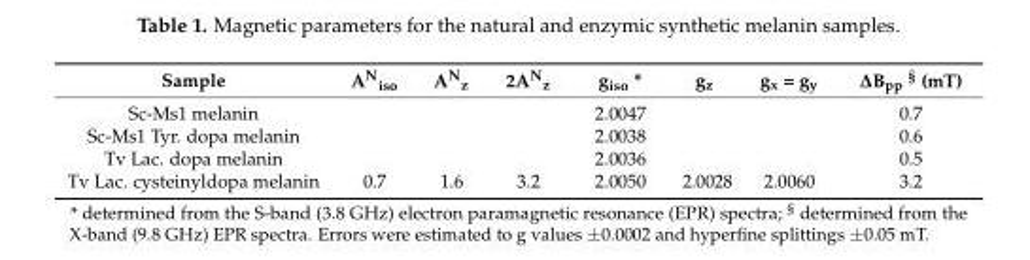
<table><thead><tr><td>Sample</td><td>A<sup>N</sup><sub>iso</sub></td><td>A<sup>N</sup><sub>z</sub></td><td>2A<sup>N</sup><sub>z</sub></td><td>g<sub>iso</sub> *</td><td>g<sub>z</sub></td><td>g<sub>x</sub> = g<sub>y</sub></td><td>∆Bpp § (mT)</td></tr></thead><tbody><tr><td>Sc-Ms1 melanin</td><td></td><td></td><td></td><td>2.0047</td><td></td><td></td><td>0.7</td></tr><tr><td>Sc-Ms1 Tyr. dopa melanin</td><td></td><td></td><td></td><td>2.0038</td><td></td><td></td><td>0.6</td></tr><tr><td>Tv Lac. dopa melanin</td><td></td><td></td><td></td><td>2.0036</td><td></td><td></td><td>0.5</td></tr><tr><td>Tv Lac. cysteinyldopa melanin</td><td>0.7</td><td>1.6</td><td>3.2</td><td>2.0050</td><td>2.0028</td><td>2.0060</td><td>3.2</td></tr></tbody></table>